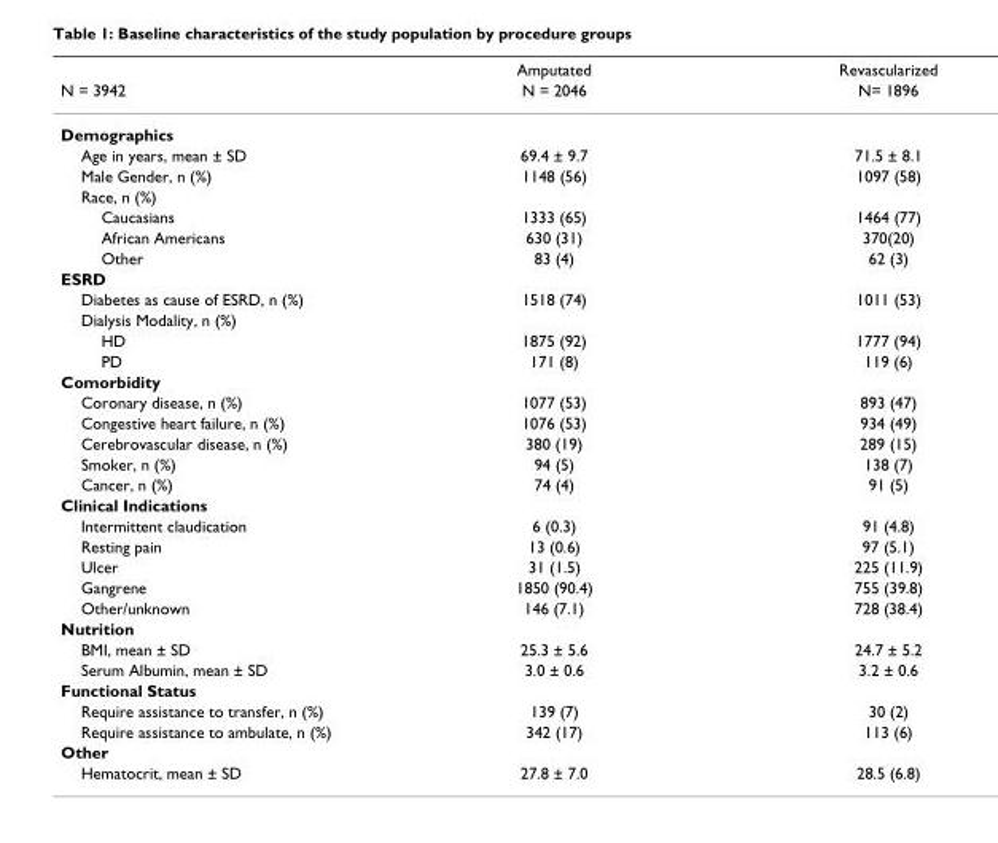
<table><thead><tr><td rowspan="2">N = 3942</td><td rowspan="2">Amputated N = 2046</td><td rowspan="2">Revascularized N= 1896</td></tr><tr></tr></thead><tbody><tr><td colspan="3">Demographics</td></tr><tr><td>Age in years, mean ± SD</td><td>69.4 ± 9.7</td><td>71.5 ± 8.1</td></tr><tr><td>Male Gender, n (%)</td><td>1148 (56)</td><td>1097 (58)</td></tr><tr><td colspan="3">Race, n (%)</td></tr><tr><td>Caucasians</td><td>1333 (65)</td><td>1464 (77)</td></tr><tr><td>African Americans</td><td>630 (31)</td><td>370(20)</td></tr><tr><td>Other</td><td>83 (4)</td><td>62 (3)</td></tr><tr><td colspan="3">ESRD</td></tr><tr><td>Diabetes as cause of ESRD, n (%)</td><td>1518 (74)</td><td>1011 (53)</td></tr><tr><td colspan="3">Dialysis Modality, n (%)</td></tr><tr><td>HD</td><td>1875 (92)</td><td>1777 (94)</td></tr><tr><td>PD</td><td>171 (8)</td><td>119 (6)</td></tr><tr><td colspan="3">Comorbidity</td></tr><tr><td>Coronary disease, n (%)</td><td>1077 (53)</td><td>893 (47)</td></tr><tr><td>Congestive heart failure, n (%)</td><td>1076 (53)</td><td>934 (49)</td></tr><tr><td>Cerebrovascular disease, n (%)</td><td>380 (19)</td><td>289 (15)</td></tr><tr><td>Smoker, n (%)</td><td>94 (5)</td><td>138 (7)</td></tr><tr><td>Cancer, n (%)</td><td>74 (4)</td><td>91 (5)</td></tr><tr><td colspan="3">Clinical Indications</td></tr><tr><td>Intermittent claudication</td><td>6 (0.3)</td><td>91 (4.8)</td></tr><tr><td>Resting pain</td><td>13 (0.6)</td><td>97 (5.1)</td></tr><tr><td>Ulcer</td><td>31 (1.5)</td><td>225 (11.9)</td></tr><tr><td>Gangrene</td><td>1850 (90.4)</td><td>755 (39.8)</td></tr><tr><td>Other/unknown</td><td>146 (7.1)</td><td>728 (38.4)</td></tr><tr><td colspan="3">Nutrition</td></tr><tr><td>BMI, mean ± SD</td><td>25.3 ± 5.6</td><td>24.7 ± 5.2</td></tr><tr><td>Serum Albumin, mean ± SD</td><td>3.0 ± 0.6</td><td>3.2 ± 0.6</td></tr><tr><td colspan="3">Functional Status</td></tr><tr><td>Require assistance to transfer, n (%)</td><td>139 (7)</td><td>30 (2)</td></tr><tr><td>Require assistance to ambulate, n (%)</td><td>342 (17)</td><td>113 (6)</td></tr><tr><td colspan="3">Other</td></tr><tr><td>Hematocrit, mean ± SD</td><td>27.8 ± 7.0</td><td>28.5 (6.8)</td></tr></tbody></table>